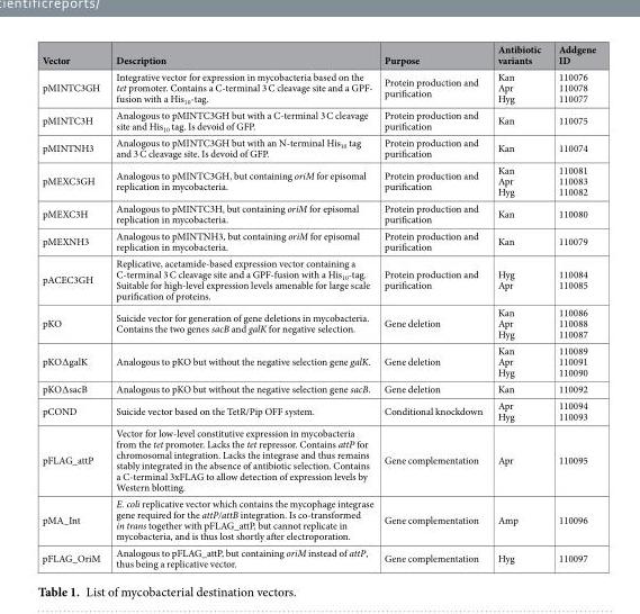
<table><thead><tr><td>Vector</td><td>Description</td><td>Purpose</td><td>Antibiotic variants</td><td>Addgene ID</td></tr></thead><tbody><tr><td>pMINTC3GH</td><td>Integrative vector for expression in mycobacteria based on the tet promoter. Contains a C-terminal 3 C cleavage site and a GPF- fusion with a His<sub>10</sub>-tag.</td><td>Protein production and purification</td><td>Kan Apr Hyg</td><td>110076 110078 110077</td></tr><tr><td>pMINTC3H</td><td>Analogous to pMINTC3GH but with a C-terminal 3 C cleavage site and His<sub>10</sub> tag. Is devoid of GFP.</td><td>Protein production and purification</td><td>Kan</td><td>110075</td></tr><tr><td>pMINTNH3</td><td>Analogous to pMINTC3GH but with an N-terminal His<sub>10</sub> tag and 3 C cleavage site. Is devoid of GFP.</td><td>Protein production and purification</td><td>Kan</td><td>110074</td></tr><tr><td>pMEXC3GH</td><td>Analogous to pMINTC3GH, but containing oriM for episomal replication in mycobacteria.</td><td>Protein production and purification</td><td>Kan Apr Hyg</td><td>110081 110083 110082</td></tr><tr><td>pMEXC3H</td><td>Analogous to pMINTC3H, but containing oriM for episomal replication in mycobacteria.</td><td>Protein production and purification</td><td>Kan</td><td>110080</td></tr><tr><td>pMEXNH3</td><td>Analogous to pMINTNH3, but containing oriM for episomal replication in mycobacteria.</td><td>Protein production and purification</td><td>Kan</td><td>110079</td></tr><tr><td>pACEC3GH</td><td>Replicative, acetamide-based expression vector containing a C-terminal 3 C cleavage site and a GPF-fusion with a His<sub>10</sub>-tag. Suitable for high-level expression levels amenable for large scale purification of proteins.</td><td>Protein production and purification</td><td>Hyg Apr</td><td>110084 110085</td></tr><tr><td>pKO</td><td>Suicide vector for generation of gene deletions in mycobacteria. Contains the two genes sacB and galK for negative selection.</td><td>Gene deletion</td><td>Kan Apr Hyg</td><td>110086 110088 110087</td></tr><tr><td>pKO∆galK</td><td>Analogous to pKO but without the negative selection gene galK.</td><td>Gene deletion</td><td>Kan Apr Hyg</td><td>110089 110091 110090</td></tr><tr><td>pKO∆sacB</td><td>Analogous to pKO but without the negative selection gene sacB.</td><td>Gene deletion</td><td>Kan</td><td>110092</td></tr><tr><td>pCOND</td><td>Suicide vector based on the TetR/Pip OFF system.</td><td>Conditional knockdown</td><td>Apr Hyg</td><td>110094 110093</td></tr><tr><td>pFLAG_attP</td><td>Vector for low-level constitutive expression in mycobacteria from the tet promoter. Lacks the tet repressor. Contains attP for chromosomal integration. Lacks the integrase and thus remains stably integrated in the absence of antibiotic selection. Contains a C-terminal 3xFLAG to allow detection of expression levels by Western blotting.</td><td>Gene complementation</td><td>Apr</td><td>110095</td></tr><tr><td>pMA_Int</td><td>E. coli replicative vector which contains the mycophage integrase gene required for the attP/attB integration. Is co-transformed in trans together with pFLAG_attP, but cannot replicate in mycobacteria, and is thus lost shortly after electroporation.</td><td>Gene complementation</td><td>Amp</td><td>110096</td></tr><tr><td>pFLAG_OriM</td><td>Analogous to pFLAG_attP, but containing oriM instead of attP, thus being a replicative vector.</td><td>Gene complementation</td><td>Hyg</td><td>110097</td></tr></tbody></table>